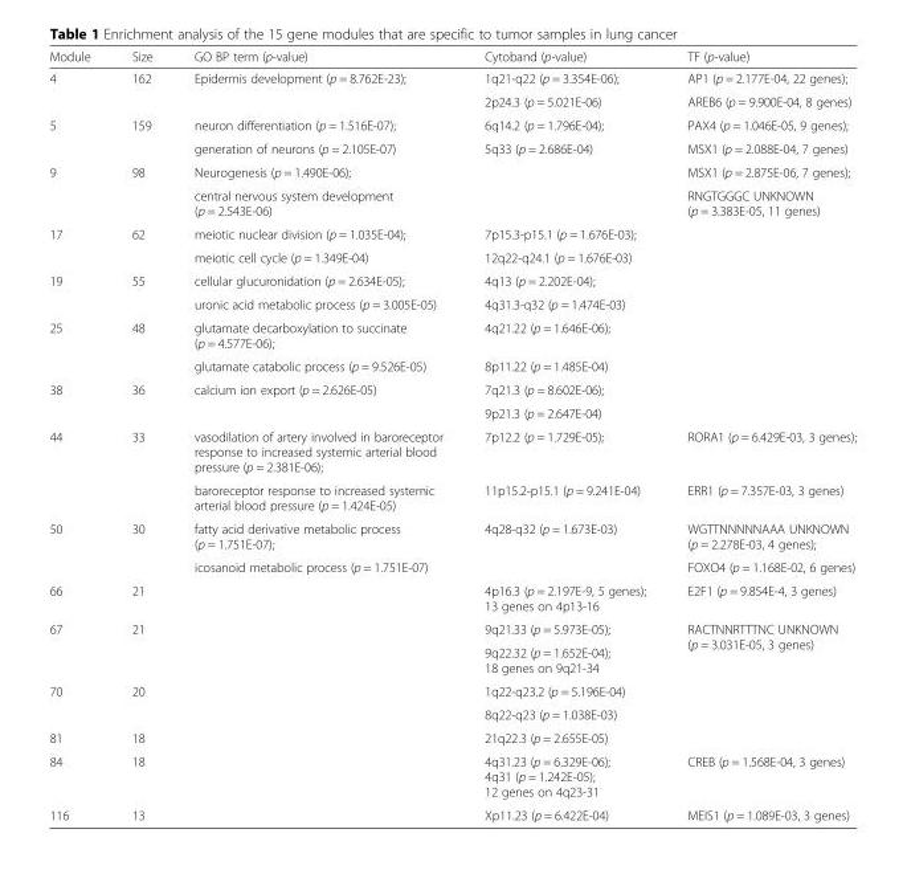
<table><thead><tr><td>Module</td><td>Size</td><td>GO BP term (p-value)</td><td>Cytoband (p-value)</td><td>TF (p-value)</td></tr></thead><tbody><tr><td rowspan="2">4</td><td rowspan="2">162</td><td rowspan="2">Epidermis development (p = 8.762E-23);</td><td>1q21-q22 (p = 3.354E-06);</td><td>AP1 (p = 2.177E-04, 22 genes);</td></tr><tr><td>2p24.3 (p = 5.021E-06)</td><td>AREB6 (p = 9.900E-04, 8 genes)</td></tr><tr><td rowspan="2">5</td><td rowspan="2">159</td><td>neuron differentiation (p = 1.516E-07);</td><td>6q14.2 (p = 1.796E-04);</td><td>PAX4 (p = 1.046E-05, 9 genes);</td></tr><tr><td>generation of neurons (p = 2.105E-07)</td><td>5q33 (p = 2.686E-04)</td><td>MSX1 (p = 2.088E-04, 7 genes)</td></tr><tr><td rowspan="2">9</td><td rowspan="2">98</td><td>Neurogenesis (p = 1.490E-06);</td><td></td><td>MSX1 (p = 2.875E-06, 7 genes);</td></tr><tr><td>central nervous system development (p = 2.543E-06)</td><td></td><td>RNGTGGGC UNKNOWN (p = 3.383E-05, 11 genes)</td></tr><tr><td rowspan="2">17</td><td rowspan="2">62</td><td>meiotic nuclear division (p = 1.035E-04);</td><td>7p15.3-p15.1 (p = 1.676E-03);</td><td rowspan="2"></td></tr><tr><td>meiotic cell cycle (p = 1.349E-04)</td><td>12q22-q24.1 (p = 1.676E-03)</td></tr><tr><td rowspan="2">19</td><td rowspan="2">55</td><td>cellular glucuronidation (p = 2.634E-05);</td><td>4q13 (p = 2.202E-04);</td><td rowspan="2"></td></tr><tr><td>uronic acid metabolic process (p = 3.005E-05)</td><td>4q31.3-q32 (p = 1.474E-03)</td></tr><tr><td rowspan="2">25</td><td rowspan="2">48</td><td>glutamate decarboxylation to succinate (p = 4.577E-06);</td><td>4q21.22 (p = 1.646E-06);</td><td rowspan="2"></td></tr><tr><td>glutamate catabolic process (p = 9.526E-05)</td><td>8p11.22 (p = 1.485E-04)</td></tr><tr><td rowspan="2">38</td><td rowspan="2">36</td><td rowspan="2">calcium ion export (p = 2.626E-05)</td><td>7q21.3 (p = 8.602E-06);</td><td rowspan="2"></td></tr><tr><td>9p21.3 (p = 2.647E-04)</td></tr><tr><td rowspan="2">44</td><td rowspan="2">33</td><td>vasodilation of artery involved in baroreceptor response to increased systemic arterial blood pressure (p = 2.381E-06);</td><td>7p12.2 (p = 1.729E-05);</td><td>RORA1 (p = 6.429E-03, 3 genes);</td></tr><tr><td>baroreceptor response to increased systemic arterial blood pressure (p = 1.424E-05)</td><td>11p15.2-p15.1 (p = 9.241E-04)</td><td>ERR1 (p = 7.357E-03, 3 genes)</td></tr><tr><td rowspan="2">50</td><td rowspan="2">30</td><td>fatty acid derivative metabolic process (p = 1.751E-07);</td><td rowspan="2">4q28-q32 (p = 1.673E-03)</td><td>WGTTNNNNNAAA UNKNOWN (p = 2.278E-03, 4 genes);</td></tr><tr><td>icosanoid metabolic process (p = 1.751E-07)</td><td>FOXO4 (p = 1.168E-02, 6 genes)</td></tr><tr><td>66</td><td>21</td><td></td><td>4p16.3 (p = 2.197E-9, 5 genes); 13 genes on 4p13-16</td><td>E2F1 (p = 9.854E-4, 3 genes)</td></tr><tr><td rowspan="2">67</td><td rowspan="2">21</td><td rowspan="2"></td><td>9q21.33 (p = 5.973E-05);</td><td rowspan="2">RACTNNRTTTNC UNKNOWN (p = 3.031E-05, 3 genes)</td></tr><tr><td>9q22.32 (p = 1.652E-04); 18 genes on 9q21-34</td></tr><tr><td rowspan="2">70</td><td rowspan="2">20</td><td rowspan="2"></td><td>1q22-q23.2 (p = 5.196E-04)</td><td rowspan="2"></td></tr><tr><td>8q22-q23 (p = 1.038E-03)</td></tr><tr><td>81</td><td>18</td><td></td><td>21q22.3 (p = 2.655E-05)</td><td></td></tr><tr><td>84</td><td>18</td><td></td><td>4q31.23 (p = 6.329E-06); 4q31 (p = 1.242E-05); 12 genes on 4q23-31</td><td>CREB (p = 1.568E-04, 3 genes)</td></tr><tr><td>116</td><td>13</td><td></td><td>Xp11.23 (p = 6.422E-04)</td><td>MEIS1 (p = 1.089E-03, 3 genes)</td></tr></tbody></table>